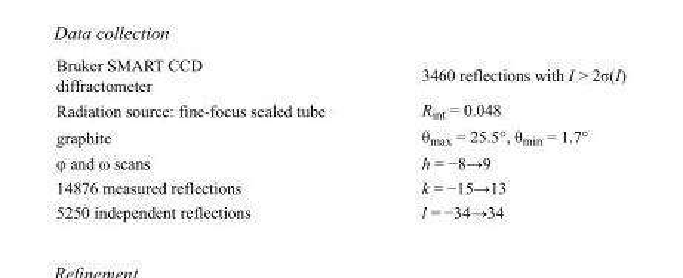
<table><tbody><tr><td>Bruker SMART CCD diffractometer</td><td>3460 reflections with I &gt; 2σ(I)</td></tr><tr><td>Radiation source: fine-focus sealed tube</td><td>R<sub>int</sub> = 0.048</td></tr><tr><td>graphite</td><td>θ<sub>max</sub> = 25.5°, θ<sub>min</sub> = 1.7°</td></tr><tr><td>φ and ω scans</td><td>h = −8→9</td></tr><tr><td>14876 measured reflections</td><td>k = −15→13</td></tr><tr><td>5250 independent reflections</td><td>l = −34→34</td></tr></tbody></table>